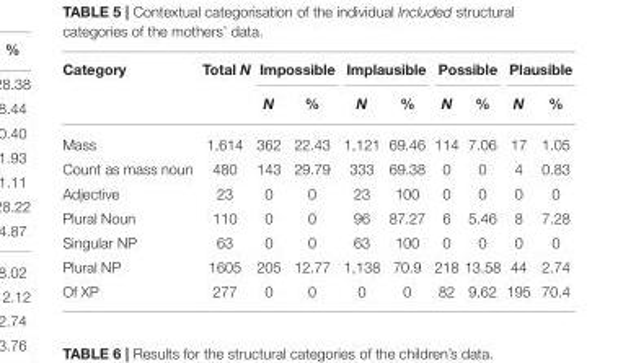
<table><thead><tr><td rowspan="2">Category</td><td rowspan="2">Total N</td><td colspan="2">Impossible</td><td colspan="2">Implausible</td><td colspan="2">Possible</td><td colspan="2">Plausible</td></tr><tr><td>N</td><td>%</td><td>N</td><td>%</td><td>N</td><td>%</td><td>N</td><td>%</td></tr></thead><tbody><tr><td>Mass</td><td>1,614</td><td>362</td><td>22.43</td><td>1,121</td><td>69.46</td><td>114</td><td>7.06</td><td>17</td><td>1.05</td></tr><tr><td>Count as mass noun</td><td>480</td><td>143</td><td>29.79</td><td>333</td><td>69.38</td><td>0</td><td>0</td><td>4</td><td>0.83</td></tr><tr><td>Adjective</td><td>23</td><td>0</td><td>0</td><td>23</td><td>100</td><td>0</td><td>0</td><td>0</td><td>0</td></tr><tr><td>Plural Noun</td><td>110</td><td>0</td><td>0</td><td>96</td><td>87.27</td><td>6</td><td>5.46</td><td>8</td><td>7.28</td></tr><tr><td>Singular NP</td><td>63</td><td>0</td><td>0</td><td>63</td><td>100</td><td>0</td><td>0</td><td>0</td><td>0</td></tr><tr><td>Plural NP</td><td>1605</td><td>205</td><td>12.77</td><td>1,138</td><td>70.9</td><td>218</td><td>13.58</td><td>44</td><td>2.74</td></tr><tr><td>Of XP</td><td>277</td><td>0</td><td>0</td><td>0</td><td>0</td><td>82</td><td>9.62</td><td>195</td><td>70.4</td></tr></tbody></table>